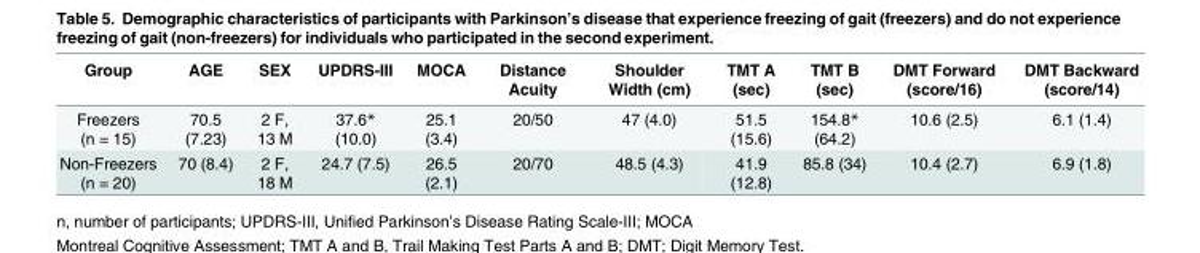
<table><thead><tr><td>Group</td><td>AGE</td><td>SEX</td><td>UPDRS-III</td><td>MOCA</td><td>Distance Acuity</td><td>Shoulder Width (cm)</td><td>TMT A (sec)</td><td>TMT B (sec)</td><td>DMT Forward (score/16)</td><td>DMT Backward (score/14)</td></tr></thead><tbody><tr><td>Freezers (n = 15)</td><td>70.5 (7.23)</td><td>2 F, 13 M</td><td>37.6* (10.0)</td><td>25.1 (3.4)</td><td>20/50</td><td>47 (4.0)</td><td>51.5 (15.6)</td><td>154.8* (64.2)</td><td>10.6 (2.5)</td><td>6.1 (1.4)</td></tr><tr><td>Non-Freezers (n = 20)</td><td>70 (8.4)</td><td>2 F, 18 M</td><td>24.7 (7.5)</td><td>26.5 (2.1)</td><td>20/70</td><td>48.5 (4.3)</td><td>41.9 (12.8)</td><td>85.8 (34)</td><td>10.4 (2.7)</td><td>6.9 (1.8)</td></tr></tbody></table>